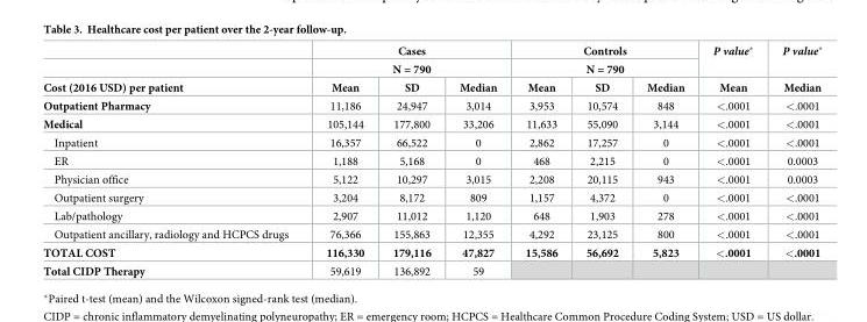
<table><thead><tr><td rowspan="3">Cost (2016 USD) per patient</td><td rowspan="2" colspan="3">Cases N = 790</td><td rowspan="2" colspan="3">Controls N = 790</td><td rowspan="3">P value* Mean</td><td rowspan="3">P value* Median</td></tr><tr></tr><tr><td>Mean</td><td>SD</td><td>Median</td><td>Mean</td><td>SD</td><td>Median</td></tr></thead><tbody><tr><td>Outpatient Pharmacy</td><td>11,186</td><td>24,947</td><td>3,014</td><td>3,953</td><td>10,574</td><td>848</td><td>&lt;.0001</td><td>&lt;.0001</td></tr><tr><td>Medical</td><td>105,144</td><td>177,800</td><td>33,206</td><td>11,633</td><td>55,090</td><td>3,144</td><td>&lt;.0001</td><td>&lt;.0001</td></tr><tr><td>Inpatient</td><td>16,357</td><td>66,522</td><td>0</td><td>2,862</td><td>17,257</td><td>0</td><td>&lt;.0001</td><td>&lt;.0001</td></tr><tr><td>ER</td><td>1,188</td><td>5,168</td><td>0</td><td>468</td><td>2,215</td><td>0</td><td>&lt;.0001</td><td>0.0003</td></tr><tr><td>Physician office</td><td>5,122</td><td>10,297</td><td>3,015</td><td>2,208</td><td>20,115</td><td>943</td><td>&lt;.0001</td><td>0.0003</td></tr><tr><td>Outpatient surgery</td><td>3,204</td><td>8,172</td><td>809</td><td>1,157</td><td>4,372</td><td>0</td><td>&lt;.0001</td><td>&lt;.0001</td></tr><tr><td>Lab/pathology</td><td>2,907</td><td>11,012</td><td>1,120</td><td>648</td><td>1,903</td><td>278</td><td>&lt;.0001</td><td>&lt;.0001</td></tr><tr><td>Outpatient ancillary, radiology and HCPCS drugs</td><td>76,366</td><td>155,863</td><td>12,355</td><td>4,292</td><td>23,125</td><td>800</td><td>&lt;.0001</td><td>&lt;.0001</td></tr><tr><td>TOTAL COST</td><td>116,330</td><td>179,116</td><td>47,827</td><td>15,586</td><td>56,692</td><td>5,823</td><td>&lt;.0001</td><td>&lt;.0001</td></tr><tr><td>Total CIDP Therapy</td><td>59,619</td><td>136,892</td><td>59</td><td></td><td></td><td></td><td></td><td></td></tr></tbody></table>